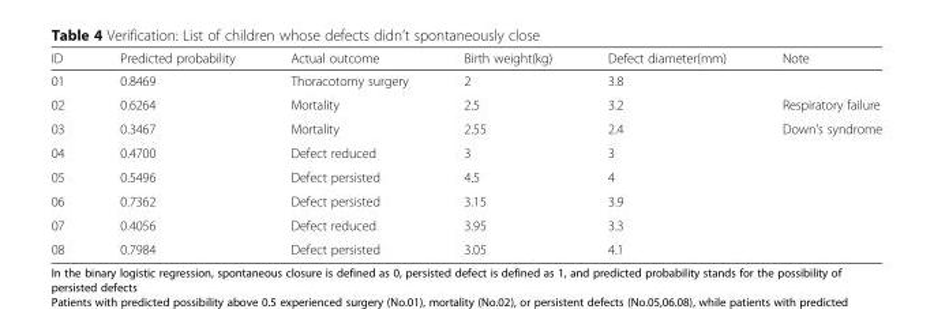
<table><thead><tr><td>ID</td><td>Predicted probability</td><td>Actual outcome</td><td>Birth weight(kg)</td><td>Defect diameter(mm)</td><td>Note</td></tr></thead><tbody><tr><td>01</td><td>0.8469</td><td>Thoracotomy surgery</td><td>2</td><td>3.8</td><td></td></tr><tr><td>02</td><td>0.6264</td><td>Mortality</td><td>2.5</td><td>3.2</td><td>Respiratory failure</td></tr><tr><td>03</td><td>0.3467</td><td>Mortality</td><td>2.55</td><td>2.4</td><td>Down’s syndrome</td></tr><tr><td>04</td><td>0.4700</td><td>Defect reduced</td><td>3</td><td>3</td><td></td></tr><tr><td>05</td><td>0.5496</td><td>Defect persisted</td><td>4.5</td><td>4</td><td></td></tr><tr><td>06</td><td>0.7362</td><td>Defect persisted</td><td>3.15</td><td>3.9</td><td></td></tr><tr><td>07</td><td>0.4056</td><td>Defect reduced</td><td>3.95</td><td>3.3</td><td></td></tr><tr><td>08</td><td>0.7984</td><td>Defect persisted</td><td>3.05</td><td>4.1</td><td></td></tr></tbody></table>